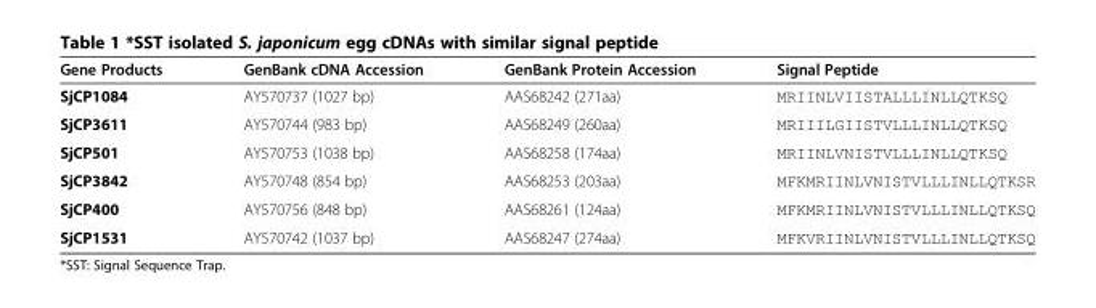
<table><thead><tr><td>Gene Products</td><td>GenBank cDNA Accession</td><td>GenBank Protein Accession</td><td>Signal Peptide</td></tr></thead><tbody><tr><td>SjCP1084</td><td>AY570737 (1027 bp)</td><td>AAS68242 (271aa)</td><td>MRIINLVIISTALLLINLLQTKSQ</td></tr><tr><td>SjCP3611</td><td>AY570744 (983 bp)</td><td>AAS68249 (260aa)</td><td>MRIIILGIISTVLLLINLLQTKSQ</td></tr><tr><td>SjCP501</td><td>AY570753 (1038 bp)</td><td>AAS68258 (174aa)</td><td>MRIINLVNISTVLLLINLLQTKSQ</td></tr><tr><td>SjCP3842</td><td>AY570748 (854 bp)</td><td>AAS68253 (203aa)</td><td>MFKMRIINLVNISTVLLLINLLQTKSR</td></tr><tr><td>SjCP400</td><td>AY570756 (848 bp)</td><td>AAS68261 (124aa)</td><td>MFKMRIINLVNISTVLLLINLLQTKSQ</td></tr><tr><td>SjCP1531</td><td>AY570742 (1037 bp)</td><td>AAS68247 (274aa)</td><td>MFKVRIINLVNISTVLLLINLLQTKSQ</td></tr></tbody></table>